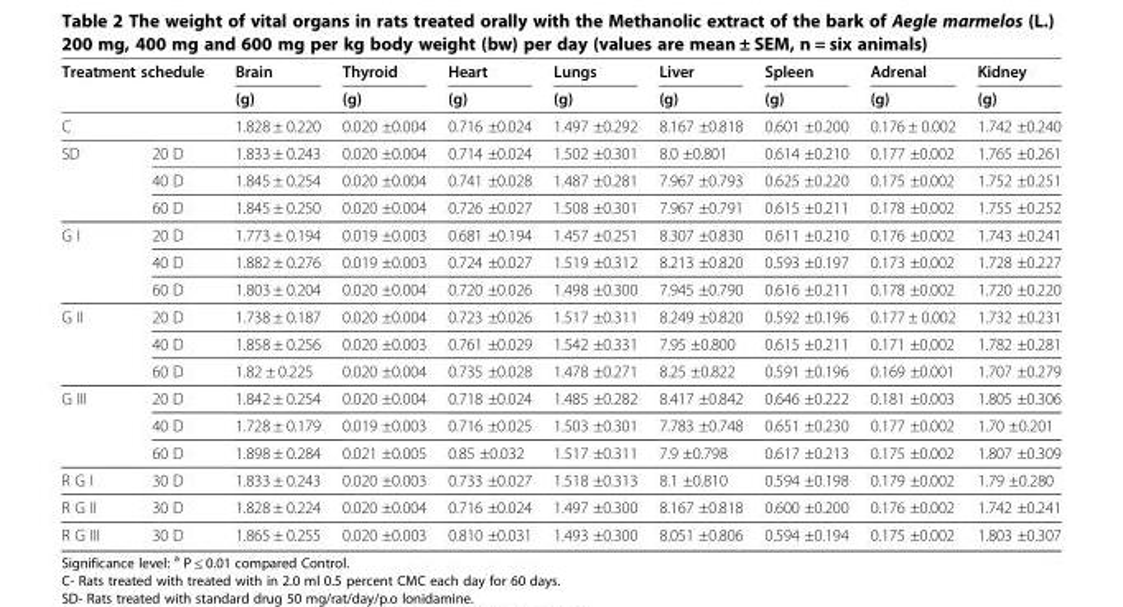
<table><thead><tr><td colspan="2">Treatment schedule</td><td rowspan="2">Brain (g)</td><td rowspan="2">Thyroid (g)</td><td rowspan="2">Heart (g)</td><td rowspan="2">Lungs (g)</td><td rowspan="2">Liver (g)</td><td rowspan="2">Spleen (g)</td><td rowspan="2">Adrenal (g)</td><td rowspan="2">Kidney (g)</td></tr><tr><td></td><td></td></tr></thead><tbody><tr><td>C</td><td></td><td>1.828 ± 0.220</td><td>0.020 ±0.004</td><td>0.716 ±0.024</td><td>1.497 ±0.292</td><td>8.167 ±0.818</td><td>0.601 ±0.200</td><td>0.176 ± 0.002</td><td>1.742 ±0.240</td></tr><tr><td rowspan="3">SD</td><td>20 D</td><td>1.833 ± 0.243</td><td>0.020 ±0.004</td><td>0.714 ±0.024</td><td>1.502 ±0.301</td><td>8.0 ±0.801</td><td>0.614 ±0.210</td><td>0.177 ±0.002</td><td>1.765 ±0.261</td></tr><tr><td>40 D</td><td>1.845 ± 0.254</td><td>0.020 ±0.004</td><td>0.741 ±0.028</td><td>1.487 ±0.281</td><td>7.967 ±0.793</td><td>0.625 ±0.220</td><td>0.175 ±0.002</td><td>1.752 ±0.251</td></tr><tr><td>60 D</td><td>1.845 ± 0.250</td><td>0.020 ±0.004</td><td>0.726 ±0.027</td><td>1.508 ±0.301</td><td>7.967 ±0.791</td><td>0.615 ±0.211</td><td>0.178 ±0.002</td><td>1.755 ±0.252</td></tr><tr><td rowspan="3">G I</td><td>20 D</td><td>1.773 ± 0.194</td><td>0.019 ±0.003</td><td>0.681 ±0.194</td><td>1.457 ±0.251</td><td>8.307 ±0.830</td><td>0.611 ±0.210</td><td>0.176 ±0.002</td><td>1.743 ±0.241</td></tr><tr><td>40 D</td><td>1.882 ± 0.276</td><td>0.019 ±0.003</td><td>0.724 ±0.027</td><td>1.519 ±0.312</td><td>8.213 ±0.820</td><td>0.593 ±0.197</td><td>0.173 ±0.002</td><td>1.728 ±0.227</td></tr><tr><td>60 D</td><td>1.803 ± 0.204</td><td>0.020 ±0.004</td><td>0.720 ±0.026</td><td>1.498 ±0.300</td><td>7.945 ±0.790</td><td>0.616 ±0.211</td><td>0.178 ±0.002</td><td>1.720 ±0.220</td></tr><tr><td rowspan="3">G II</td><td>20 D</td><td>1.738 ± 0.187</td><td>0.020 ±0.004</td><td>0.723 ±0.026</td><td>1.517 ±0.311</td><td>8.249 ±0.820</td><td>0.592 ±0.196</td><td>0.177 ± 0.002</td><td>1.732 ±0.231</td></tr><tr><td>40 D</td><td>1.858 ± 0.256</td><td>0.020 ±0.003</td><td>0.761 ±0.029</td><td>1.542 ±0.331</td><td>7.95 ±0.800</td><td>0.615 ±0.211</td><td>0.171 ±0.002</td><td>1.782 ±0.281</td></tr><tr><td>60 D</td><td>1.82 ± 0.225</td><td>0.020 ±0.004</td><td>0.735 ±0.028</td><td>1.478 ±0.271</td><td>8.25 ±0.822</td><td>0.591 ±0.196</td><td>0.169 ±0.001</td><td>1.707 ±0.279</td></tr><tr><td rowspan="3">G III</td><td>20 D</td><td>1.842 ± 0.254</td><td>0.020 ±0.004</td><td>0.718 ±0.024</td><td>1.485 ±0.282</td><td>8.417 ±0.842</td><td>0.646 ±0.222</td><td>0.181 ±0.003</td><td>1.805 ±0.306</td></tr><tr><td>40 D</td><td>1.728 ± 0.179</td><td>0.019 ±0.003</td><td>0.716 ±0.025</td><td>1.503 ±0.301</td><td>7.783 ±0.748</td><td>0.651 ±0.230</td><td>0.177 ±0.002</td><td>1.70 ±0.201</td></tr><tr><td>60 D</td><td>1.898 ± 0.284</td><td>0.021 ±0.005</td><td>0.85 ±0.032</td><td>1.517 ±0.311</td><td>7.9 ±0.798</td><td>0.617 ±0.213</td><td>0.175 ±0.002</td><td>1.807 ±0.309</td></tr><tr><td>R G I</td><td>30 D</td><td>1.833 ± 0.243</td><td>0.020 ±0.003</td><td>0.733 ±0.027</td><td>1.518 ±0.313</td><td>8.1 ±0.810</td><td>0.594 ±0.198</td><td>0.179 ±0.002</td><td>1.79 ±0.280</td></tr><tr><td>R G II</td><td>30 D</td><td>1.828 ± 0.224</td><td>0.020 ±0.004</td><td>0.716 ±0.024</td><td>1.497 ±0.300</td><td>8.167 ±0.818</td><td>0.600 ±0.200</td><td>0.176 ±0.002</td><td>1.742 ±0.241</td></tr><tr><td>R G III</td><td>30 D</td><td>1.865 ± 0.255</td><td>0.020 ±0.003</td><td>0.810 ±0.031</td><td>1.493 ±0.300</td><td>8.051 ±0.806</td><td>0.594 ±0.194</td><td>0.175 ±0.002</td><td>1.803 ±0.307</td></tr></tbody></table>